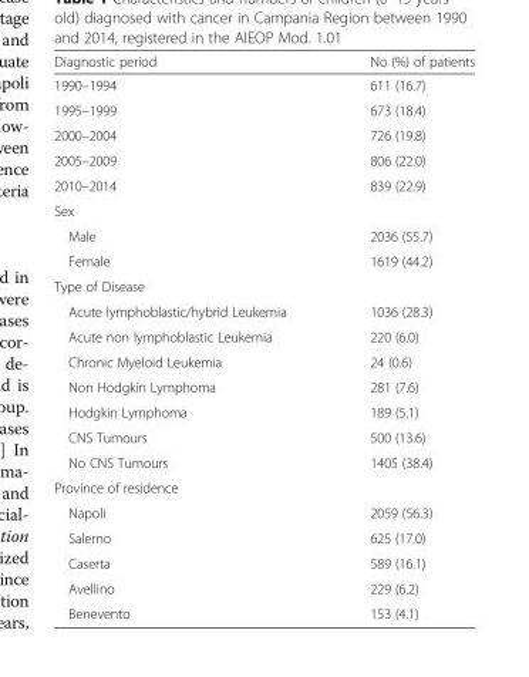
<table><thead><tr><td>Diagnostic period</td><td>No (%) of patients</td></tr></thead><tbody><tr><td>1990–1994</td><td>611 (16.7)</td></tr><tr><td>1995–1999</td><td>673 (18.4)</td></tr><tr><td>2000–2004</td><td>726 (19.8)</td></tr><tr><td>2005–2009</td><td>806 (22.0)</td></tr><tr><td>2010–2014</td><td>839 (22.9)</td></tr><tr><td colspan="2">Sex</td></tr><tr><td>Male</td><td>2036 (55.7)</td></tr><tr><td>Female</td><td>1619 (44.2)</td></tr><tr><td colspan="2">Type of Disease</td></tr><tr><td>Acute lymphoblastic/hybrid Leukemia</td><td>1036 (28.3)</td></tr><tr><td>Acute non lymphoblastic Leukemia</td><td>220 (6.0)</td></tr><tr><td>Chronic Myeloid Leukemia</td><td>24 (0.6)</td></tr><tr><td>Non Hodgkin Lymphoma</td><td>281 (7.6)</td></tr><tr><td>Hodgkin Lymphoma</td><td>189 (5.1)</td></tr><tr><td>CNS Tumours</td><td>500 (13.6)</td></tr><tr><td>No CNS Tumours</td><td>1405 (38.4)</td></tr><tr><td colspan="2">Province of residence</td></tr><tr><td>Napoli</td><td>2059 (56.3)</td></tr><tr><td>Salerno</td><td>625 (17.0)</td></tr><tr><td>Caserta</td><td>589 (16.1)</td></tr><tr><td>Avellino</td><td>229 (6.2)</td></tr><tr><td>Benevento</td><td>153 (4.1)</td></tr></tbody></table>